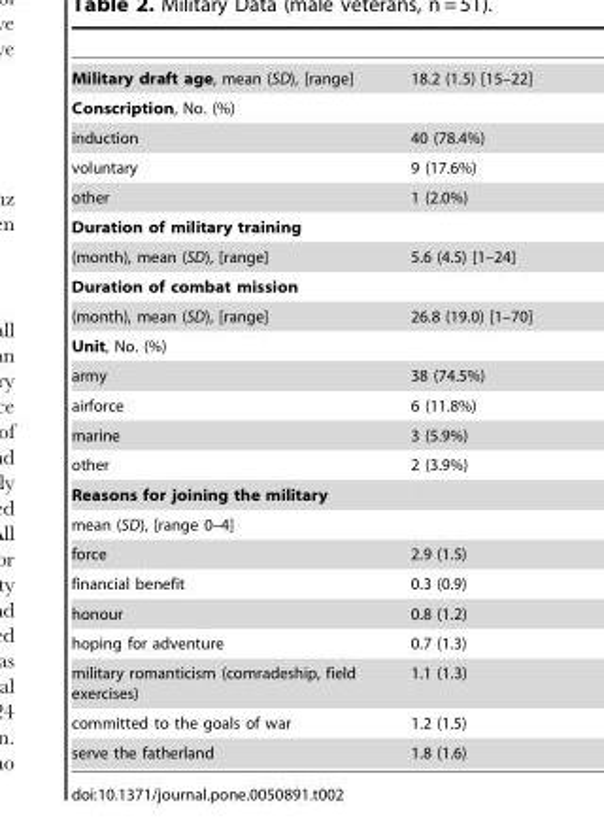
<table><tbody><tr><td>Military draft age, mean (SD), [range]</td><td>18.2 (1.5) [15–22]</td></tr><tr><td colspan="2">Conscription, No. (%)</td></tr><tr><td>induction</td><td>40 (78.4%)</td></tr><tr><td>voluntary</td><td>9 (17.6%)</td></tr><tr><td>other</td><td>1 (2.0%)</td></tr><tr><td colspan="2">Duration of military training</td></tr><tr><td>(month), mean (SD), [range]</td><td>5.6 (4.5) [1–24]</td></tr><tr><td colspan="2">Duration of combat mission</td></tr><tr><td>(month), mean (SD), [range]</td><td>26.8 (19.0) [1–70]</td></tr><tr><td colspan="2">Unit, No. (%)</td></tr><tr><td>army</td><td>38 (74.5%)</td></tr><tr><td>airforce</td><td>6 (11.8%)</td></tr><tr><td>marine</td><td>3 (5.9%)</td></tr><tr><td>other</td><td>2 (3.9%)</td></tr><tr><td colspan="2">Reasons for joining the military</td></tr><tr><td colspan="2">mean (SD), [range 0–4]</td></tr><tr><td>force</td><td>2.9 (1.5)</td></tr><tr><td>financial benefit</td><td>0.3 (0.9)</td></tr><tr><td>honour</td><td>0.8 (1.2)</td></tr><tr><td>hoping for adventure</td><td>0.7 (1.3)</td></tr><tr><td>military romanticism (comradeship, field exercises)</td><td>1.1 (1.3)</td></tr><tr><td>committed to the goals of war</td><td>1.2 (1.5)</td></tr><tr><td>serve the fatherland</td><td>1.8 (1.6)</td></tr></tbody></table>